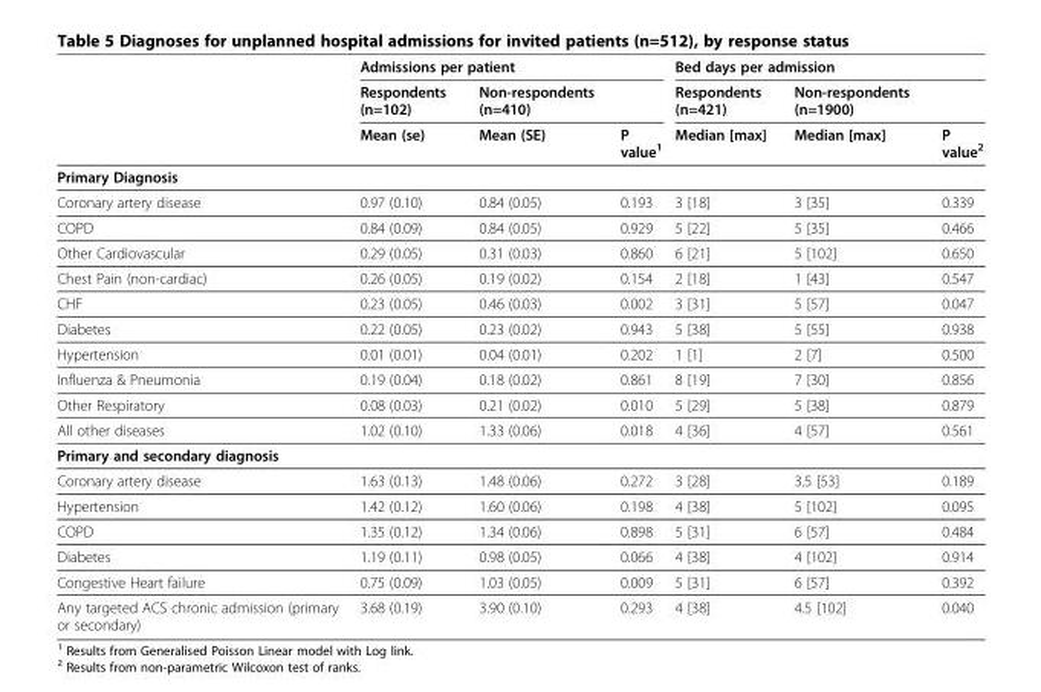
<table><thead><tr><td rowspan="3"></td><td colspan="3">Admissions per patient</td><td colspan="3">Bed days per admission</td></tr><tr><td rowspan="2">Respondents (n=102) Mean (se)</td><td rowspan="2">Non-respondents (n=410) Mean (SE)</td><td rowspan="2">P value<sup>1</sup></td><td rowspan="2">Respondents (n=421) Median [max]</td><td rowspan="2">Non-respondents (n=1900) Median [max]</td><td rowspan="2">P value<sup>2</sup></td></tr><tr></tr></thead><tbody><tr><td colspan="7">Primary Diagnosis</td></tr><tr><td>Coronary artery disease</td><td>0.97 (0.10)</td><td>0.84 (0.05)</td><td>0.193</td><td>3 [18]</td><td>3 [35]</td><td>0.339</td></tr><tr><td>COPD</td><td>0.84 (0.09)</td><td>0.84 (0.05)</td><td>0.929</td><td>5 [22]</td><td>5 [35]</td><td>0.466</td></tr><tr><td>Other Cardiovascular</td><td>0.29 (0.05)</td><td>0.31 (0.03)</td><td>0.860</td><td>6 [21]</td><td>5 [102]</td><td>0.650</td></tr><tr><td>Chest Pain (non-cardiac)</td><td>0.26 (0.05)</td><td>0.19 (0.02)</td><td>0.154</td><td>2 [18]</td><td>1 [43]</td><td>0.547</td></tr><tr><td>CHF</td><td>0.23 (0.05)</td><td>0.46 (0.03)</td><td>0.002</td><td>3 [31]</td><td>5 [57]</td><td>0.047</td></tr><tr><td>Diabetes</td><td>0.22 (0.05)</td><td>0.23 (0.02)</td><td>0.943</td><td>5 [38]</td><td>5 [55]</td><td>0.938</td></tr><tr><td>Hypertension</td><td>0.01 (0.01)</td><td>0.04 (0.01)</td><td>0.202</td><td>1 [1]</td><td>2 [7]</td><td>0.500</td></tr><tr><td>Influenza &amp; Pneumonia</td><td>0.19 (0.04)</td><td>0.18 (0.02)</td><td>0.861</td><td>8 [19]</td><td>7 [30]</td><td>0.856</td></tr><tr><td>Other Respiratory</td><td>0.08 (0.03)</td><td>0.21 (0.02)</td><td>0.010</td><td>5 [29]</td><td>5 [38]</td><td>0.879</td></tr><tr><td>All other diseases</td><td>1.02 (0.10)</td><td>1.33 (0.06)</td><td>0.018</td><td>4 [36]</td><td>4 [57]</td><td>0.561</td></tr><tr><td colspan="7">Primary and secondary diagnosis</td></tr><tr><td>Coronary artery disease</td><td>1.63 (0.13)</td><td>1.48 (0.06)</td><td>0.272</td><td>3 [28]</td><td>3.5 [53]</td><td>0.189</td></tr><tr><td>Hypertension</td><td>1.42 (0.12)</td><td>1.60 (0.06)</td><td>0.198</td><td>4 [38]</td><td>5 [102]</td><td>0.095</td></tr><tr><td>COPD</td><td>1.35 (0.12)</td><td>1.34 (0.06)</td><td>0.898</td><td>5 [31]</td><td>6 [57]</td><td>0.484</td></tr><tr><td>Diabetes</td><td>1.19 (0.11)</td><td>0.98 (0.05)</td><td>0.066</td><td>4 [38]</td><td>4 [102]</td><td>0.914</td></tr><tr><td>Congestive Heart failure</td><td>0.75 (0.09)</td><td>1.03 (0.05)</td><td>0.009</td><td>5 [31]</td><td>6 [57]</td><td>0.392</td></tr><tr><td>Any targeted ACS chronic admission (primary or secondary)</td><td>3.68 (0.19)</td><td>3.90 (0.10)</td><td>0.293</td><td>4 [38]</td><td>4.5 [102]</td><td>0.040</td></tr></tbody></table>